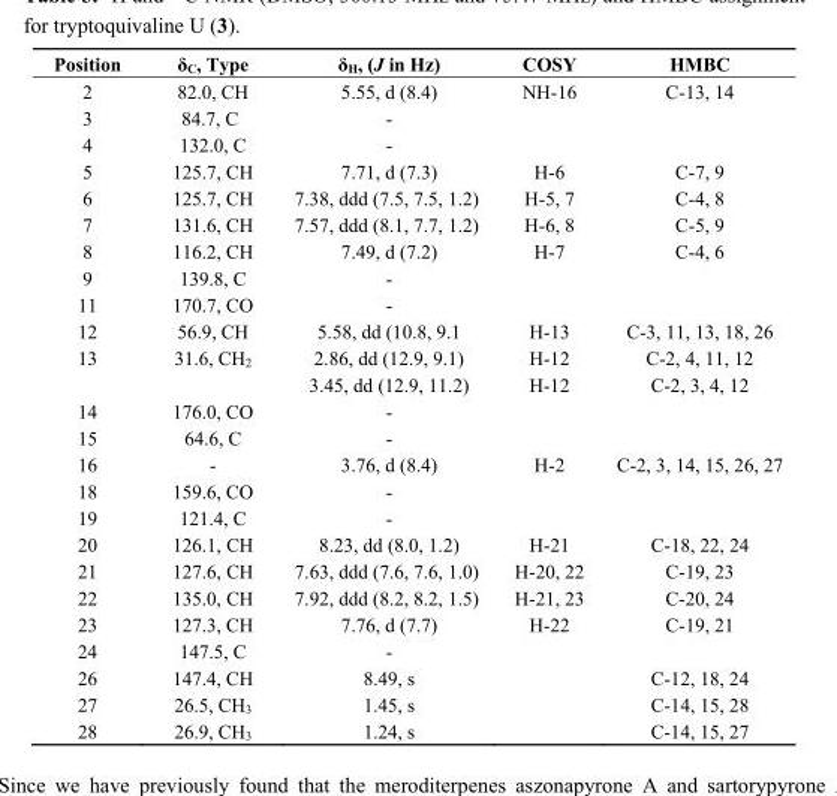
<table><thead><tr><td>Position</td><td>δ<sub>C</sub>, Type</td><td>δ<sub>H</sub>, (J in Hz)</td><td>COSY</td><td>HMBC</td></tr></thead><tbody><tr><td>2</td><td>82.0, CH</td><td>5.55, d (8.4)</td><td>NH-16</td><td>C-13, 14</td></tr><tr><td>3</td><td>84.7, C</td><td>-</td><td></td><td></td></tr><tr><td>4</td><td>132.0, C</td><td>-</td><td></td><td></td></tr><tr><td>5</td><td>125.7, CH</td><td>7.71, d (7.3)</td><td>H-6</td><td>C-7, 9</td></tr><tr><td>6</td><td>125.7, CH</td><td>7.38, ddd (7.5, 7.5, 1.2)</td><td>H-5, 7</td><td>C-4, 8</td></tr><tr><td>7</td><td>131.6, CH</td><td>7.57, ddd (8.1, 7.7, 1.2)</td><td>H-6, 8</td><td>C-5, 9</td></tr><tr><td>8</td><td>116.2, CH</td><td>7.49, d (7.2)</td><td>H-7</td><td>C-4, 6</td></tr><tr><td>9</td><td>139.8, C</td><td>-</td><td></td><td></td></tr><tr><td>11</td><td>170.7, CO</td><td>-</td><td></td><td></td></tr><tr><td>12</td><td>56.9, CH</td><td>5.58, dd (10.8, 9.1</td><td>H-13</td><td>C-3, 11, 13, 18, 26</td></tr><tr><td rowspan="2">13</td><td>31.6, CH<sub>2</sub></td><td>2.86, dd (12.9, 9.1)</td><td>H-12</td><td>C-2, 4, 11, 12</td></tr><tr><td></td><td>3.45, dd (12.9, 11.2)</td><td>H-12</td><td>C-2, 3, 4, 12</td></tr><tr><td>14</td><td>176.0, CO</td><td>-</td><td></td><td></td></tr><tr><td>15</td><td>64.6, C</td><td>-</td><td></td><td></td></tr><tr><td>16</td><td>-</td><td>3.76, d (8.4)</td><td>H-2</td><td>C-2, 3, 14, 15, 26, 27</td></tr><tr><td>18</td><td>159.6, CO</td><td>-</td><td></td><td></td></tr><tr><td>19</td><td>121.4, C</td><td>-</td><td></td><td></td></tr><tr><td>20</td><td>126.1, CH</td><td>8.23, dd (8.0, 1.2)</td><td>H-21</td><td>C-18, 22, 24</td></tr><tr><td>21</td><td>127.6, CH</td><td>7.63, ddd (7.6, 7.6, 1.0)</td><td>H-20, 22</td><td>C-19, 23</td></tr><tr><td>22</td><td>135.0, CH</td><td>7.92, ddd (8.2, 8.2, 1.5)</td><td>H-21, 23</td><td>C-20, 24</td></tr><tr><td>23</td><td>127.3, CH</td><td>7.76, d (7.7)</td><td>H-22</td><td>C-19, 21</td></tr><tr><td>24</td><td>147.5, C</td><td>-</td><td></td><td></td></tr><tr><td>26</td><td>147.4, CH</td><td>8.49, s</td><td></td><td>C-12, 18, 24</td></tr><tr><td>27</td><td>26.5, CH<sub>3</sub></td><td>1.45, s</td><td></td><td>C-14, 15, 28</td></tr><tr><td>28</td><td>26.9, CH<sub>3</sub></td><td>1.24, s</td><td></td><td>C-14, 15, 27</td></tr></tbody></table>